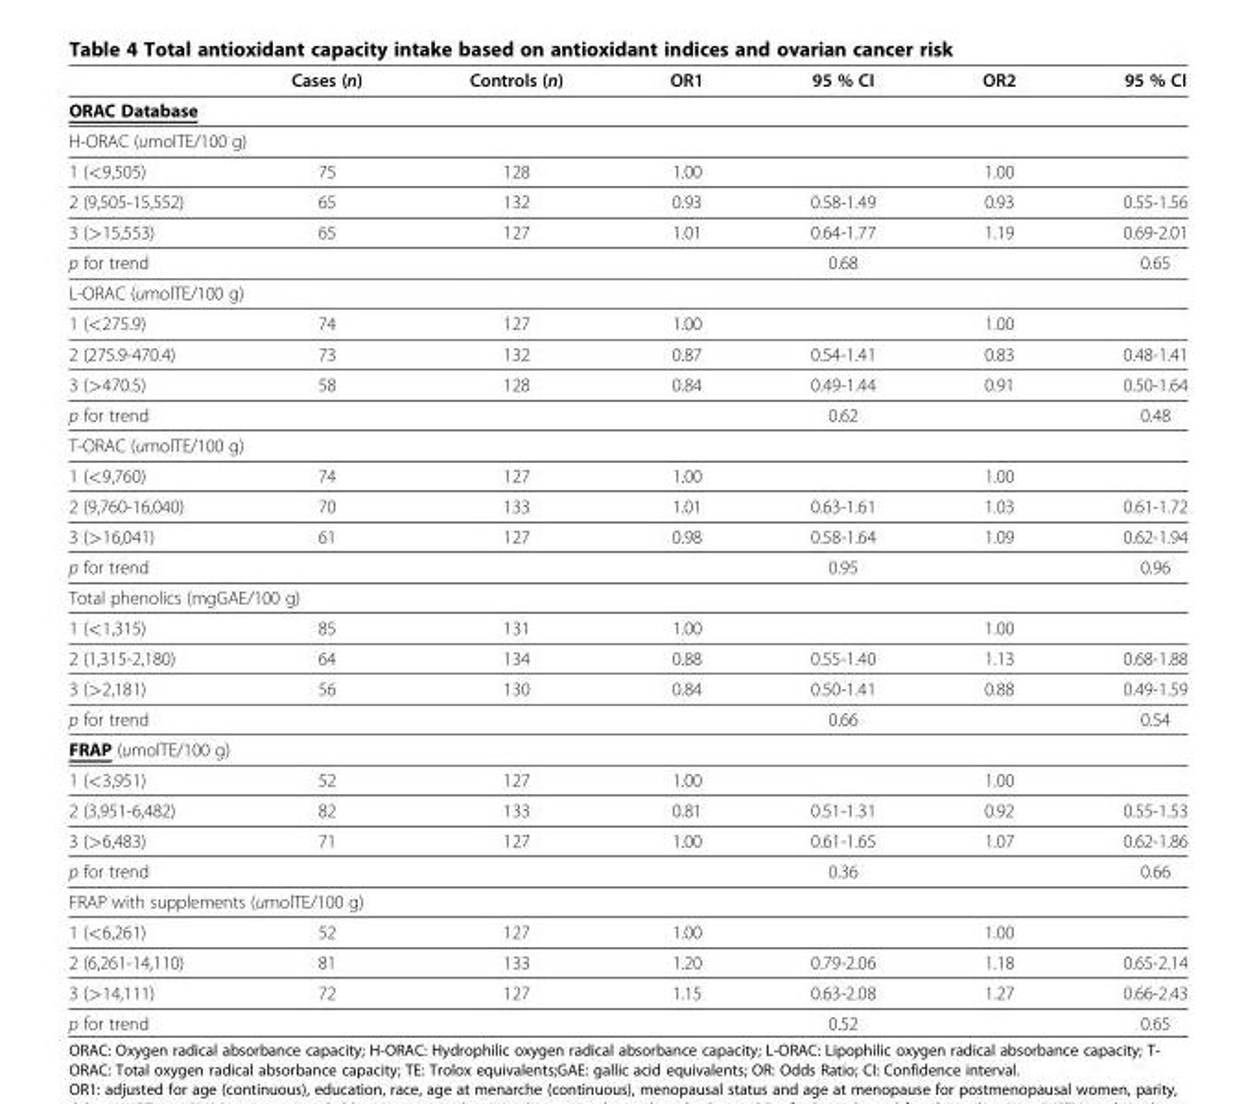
<table><thead><tr><td></td><td>Cases (n)</td><td>Controls (n)</td><td>OR1</td><td>95 % CI</td><td>OR2</td><td>95 % CI</td></tr></thead><tbody><tr><td colspan="7">ORAC Database</td></tr><tr><td colspan="7">H-ORAC (umolTE/100 g)</td></tr><tr><td>1 (&lt;9,505)</td><td>75</td><td>128</td><td>1.00</td><td></td><td>1.00</td><td></td></tr><tr><td>2 (9,505-15,552)</td><td>65</td><td>132</td><td>0.93</td><td>0.58-1.49</td><td>0.93</td><td>0.55-1.56</td></tr><tr><td>3 (&gt;15,553)</td><td>65</td><td>127</td><td>1.01</td><td>0.64-1.77</td><td>1.19</td><td>0.69-2.01</td></tr><tr><td>p for trend</td><td></td><td></td><td></td><td>0.68</td><td></td><td>0.65</td></tr><tr><td colspan="7">L-ORAC (umolTE/100 g)</td></tr><tr><td>1 (&lt;275.9)</td><td>74</td><td>127</td><td>1.00</td><td></td><td>1.00</td><td></td></tr><tr><td>2 (275.9-470.4)</td><td>73</td><td>132</td><td>0.87</td><td>0.54-1.41</td><td>0.83</td><td>0.48-1.41</td></tr><tr><td>3 (&gt;470.5)</td><td>58</td><td>128</td><td>0.84</td><td>0.49-1.44</td><td>0.91</td><td>0.50-1.64</td></tr><tr><td>p for trend</td><td></td><td></td><td></td><td>0.62</td><td></td><td>0.48</td></tr><tr><td colspan="7">T-ORAC (umolTE/100 g)</td></tr><tr><td>1 (&lt;9,760)</td><td>74</td><td>127</td><td>1.00</td><td></td><td>1.00</td><td></td></tr><tr><td>2 (9,760-16,040)</td><td>70</td><td>133</td><td>1.01</td><td>0.63-1.61</td><td>1.03</td><td>0.61-1.72</td></tr><tr><td>3 (&gt;16,041)</td><td>61</td><td>127</td><td>0.98</td><td>0.58-1.64</td><td>1.09</td><td>0.62-1.94</td></tr><tr><td>p for trend</td><td></td><td></td><td></td><td>0.95</td><td></td><td>0.96</td></tr><tr><td colspan="7">Total phenolics (mgGAE/100 g)</td></tr><tr><td>1 (&lt;1,315)</td><td>85</td><td>131</td><td>1.00</td><td></td><td>1.00</td><td></td></tr><tr><td>2 (1,315-2,180)</td><td>64</td><td>134</td><td>0.88</td><td>0.55-1.40</td><td>1.13</td><td>0.68-1.88</td></tr><tr><td>3 (&gt;2,181)</td><td>56</td><td>130</td><td>0.84</td><td>0.50-1.41</td><td>0.88</td><td>0.49-1.59</td></tr><tr><td>p for trend</td><td></td><td></td><td></td><td>0.66</td><td></td><td>0.54</td></tr><tr><td colspan="7">FRAP (umolTE/100 g)</td></tr><tr><td>1 (&lt;3,951)</td><td>52</td><td>127</td><td>1.00</td><td></td><td>1.00</td><td></td></tr><tr><td>2 (3,951-6,482)</td><td>82</td><td>133</td><td>0.81</td><td>0.51-1.31</td><td>0.92</td><td>0.55-1.53</td></tr><tr><td>3 (&gt;6,483)</td><td>71</td><td>127</td><td>1.00</td><td>0.61-1.65</td><td>1.07</td><td>0.62-1.86</td></tr><tr><td>p for trend</td><td></td><td></td><td></td><td>0.36</td><td></td><td>0.66</td></tr><tr><td colspan="7">FRAP with supplements (umolTE/100 g)</td></tr><tr><td>1 (&lt;6,261)</td><td>52</td><td>127</td><td>1.00</td><td></td><td>1.00</td><td></td></tr><tr><td>2 (6,261-14,110)</td><td>81</td><td>133</td><td>1.20</td><td>0.79-2.06</td><td>1.18</td><td>0.65-2.14</td></tr><tr><td>3 (&gt;14,111)</td><td>72</td><td>127</td><td>1.15</td><td>0.63-2.08</td><td>1.27</td><td>0.66-2.43</td></tr><tr><td>p for trend</td><td></td><td></td><td></td><td>0.52</td><td></td><td>0.65</td></tr></tbody></table>